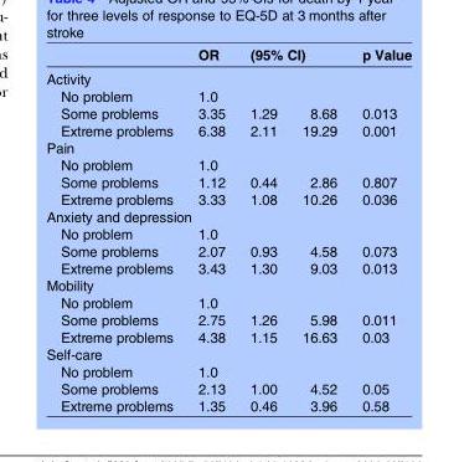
<table><thead><tr><td></td><td>OR</td><td colspan="2">(95% CI)</td><td>p Value</td></tr><tr><td colspan="5">Activity</td></tr><tr><td>No problem</td><td>1.0</td><td></td><td></td><td></td></tr></thead><tbody><tr><td>Some problems</td><td>3.35</td><td>1.29</td><td>8.68</td><td>0.013</td></tr><tr><td>Extreme problems</td><td>6.38</td><td>2.11</td><td>19.29</td><td>0.001</td></tr><tr><td colspan="5">Pain</td></tr><tr><td>No problem</td><td>1.0</td><td></td><td></td><td></td></tr><tr><td>Some problems</td><td>1.12</td><td>0.44</td><td>2.86</td><td>0.807</td></tr><tr><td>Extreme problems</td><td>3.33</td><td>1.08</td><td>10.26</td><td>0.036</td></tr><tr><td colspan="5">Anxiety and depression</td></tr><tr><td>No problem</td><td>1.0</td><td></td><td></td><td></td></tr><tr><td>Some problems</td><td>2.07</td><td>0.93</td><td>4.58</td><td>0.073</td></tr><tr><td>Extreme problems</td><td>3.43</td><td>1.30</td><td>9.03</td><td>0.013</td></tr><tr><td colspan="5">Mobility</td></tr><tr><td>No problem</td><td>1.0</td><td></td><td></td><td></td></tr><tr><td>Some problems</td><td>2.75</td><td>1.26</td><td>5.98</td><td>0.011</td></tr><tr><td>Extreme problems</td><td>4.38</td><td>1.15</td><td>16.63</td><td>0.03</td></tr><tr><td colspan="5">Self-care</td></tr><tr><td>No problem</td><td>1.0</td><td></td><td></td><td></td></tr><tr><td>Some problems</td><td>2.13</td><td>1.00</td><td>4.52</td><td>0.05</td></tr><tr><td>Extreme problems</td><td>1.35</td><td>0.46</td><td>3.96</td><td>0.58</td></tr></tbody></table>